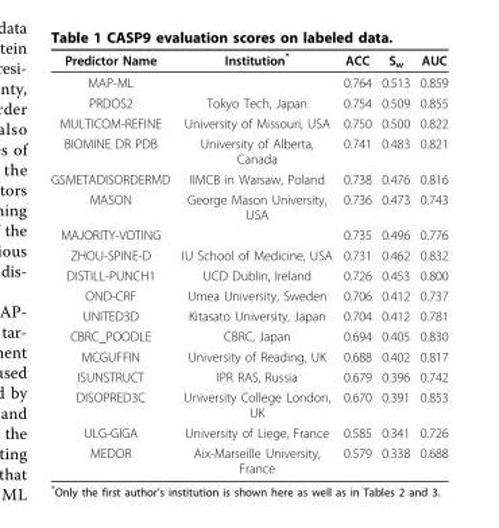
<table><thead><tr><td>Predictor Name</td><td>Institution*</td><td>ACC</td><td>S<sub>w</sub></td><td>AUC</td></tr></thead><tbody><tr><td>MAP-ML</td><td></td><td>0.764</td><td>0.513</td><td>0.859</td></tr><tr><td>PRDOS2</td><td>Tokyo Tech, Japan</td><td>0.754</td><td>0.509</td><td>0.855</td></tr><tr><td>MULTICOM-REFINE</td><td>University of Missouri, USA</td><td>0.750</td><td>0.500</td><td>0.822</td></tr><tr><td>BIOMINE DR PDB</td><td>University of Alberta, Canada</td><td>0.741</td><td>0.483</td><td>0.821</td></tr><tr><td>GSMETADISORDERMD</td><td>IIMCB in Warsaw, Poland</td><td>0.738</td><td>0.476</td><td>0.816</td></tr><tr><td>MASON</td><td>George Mason University, USA</td><td>0.736</td><td>0.473</td><td>0.743</td></tr><tr><td>MAJORITY-VOTING</td><td></td><td>0.735</td><td>0.496</td><td>0.776</td></tr><tr><td>ZHOU-SPINE-D</td><td>IU School of Medicine, USA</td><td>0.731</td><td>0.462</td><td>0.832</td></tr><tr><td>DISTILL-PUNCH1</td><td>UCD Dublin, Ireland</td><td>0.726</td><td>0.453</td><td>0.800</td></tr><tr><td>OND-CRF</td><td>Umea University, Sweden</td><td>0.706</td><td>0.412</td><td>0.737</td></tr><tr><td>UNITED3D</td><td>Kitasato University, Japan</td><td>0.704</td><td>0.412</td><td>0.781</td></tr><tr><td>CBRC_POODLE</td><td>CBRC, Japan</td><td>0.694</td><td>0.405</td><td>0.830</td></tr><tr><td>MCGUFFIN</td><td>University of Reading, UK</td><td>0.688</td><td>0.402</td><td>0.817</td></tr><tr><td>ISUNSTRUCT</td><td>IPR RAS, Russia</td><td>0.679</td><td>0.396</td><td>0.742</td></tr><tr><td>DISOPRED3C</td><td>University College London, UK</td><td>0.670</td><td>0.391</td><td>0.853</td></tr><tr><td>ULG-GIGA</td><td>University of Liege, France</td><td>0.585</td><td>0.341</td><td>0.726</td></tr><tr><td>MEDOR</td><td>Aix-Marseille University, France</td><td>0.579</td><td>0.338</td><td>0.688</td></tr></tbody></table>